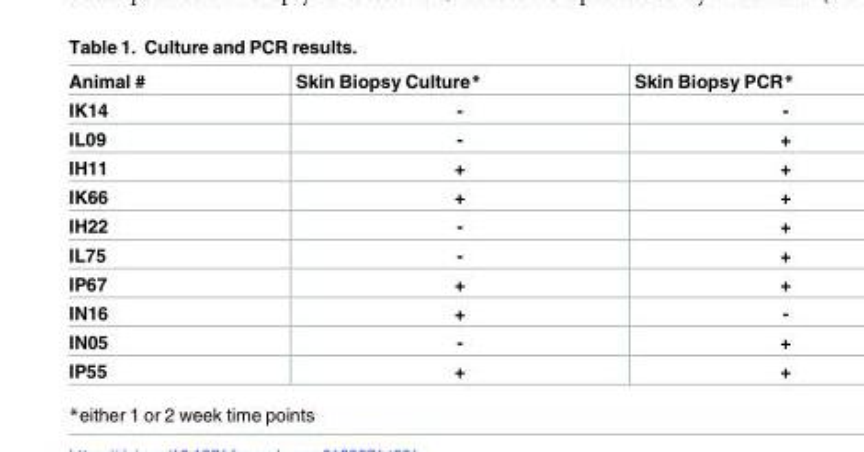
<table><thead><tr><td>Animal #</td><td>Skin Biopsy Culture*</td><td>Skin Biopsy PCR*</td></tr></thead><tbody><tr><td>IK14</td><td>-</td><td>-</td></tr><tr><td>IL09</td><td>-</td><td>+</td></tr><tr><td>IH11</td><td>+</td><td>+</td></tr><tr><td>IK66</td><td>+</td><td>+</td></tr><tr><td>IH22</td><td>-</td><td>+</td></tr><tr><td>IL75</td><td>-</td><td>+</td></tr><tr><td>IP67</td><td>+</td><td>+</td></tr><tr><td>IN16</td><td>+</td><td>-</td></tr><tr><td>IN05</td><td>-</td><td>+</td></tr><tr><td>IP55</td><td>+</td><td>+</td></tr></tbody></table>